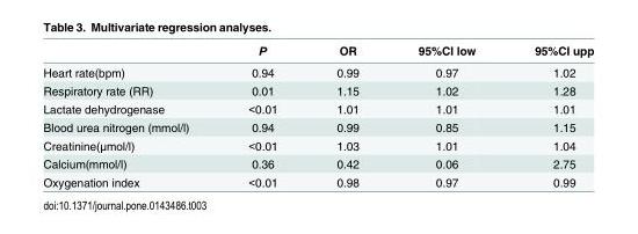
<table><thead><tr><td></td><td>P</td><td>OR</td><td>95%CI low</td><td>95%CI upp</td></tr></thead><tbody><tr><td>Heart rate(bpm)</td><td>0.94</td><td>0.99</td><td>0.97</td><td>1.02</td></tr><tr><td>Respiratory rate (RR)</td><td>0.01</td><td>1.15</td><td>1.02</td><td>1.28</td></tr><tr><td>Lactate dehydrogenase</td><td>&lt;0.01</td><td>1.01</td><td>1.01</td><td>1.01</td></tr><tr><td>Blood urea nitrogen (mmol/l)</td><td>0.94</td><td>0.99</td><td>0.85</td><td>1.15</td></tr><tr><td>Creatinine(μmol/l)</td><td>&lt;0.01</td><td>1.03</td><td>1.01</td><td>1.04</td></tr><tr><td>Calcium(mmol/l)</td><td>0.36</td><td>0.42</td><td>0.06</td><td>2.75</td></tr><tr><td>Oxygenation index</td><td>&lt;0.01</td><td>0.98</td><td>0.97</td><td>0.99</td></tr></tbody></table>